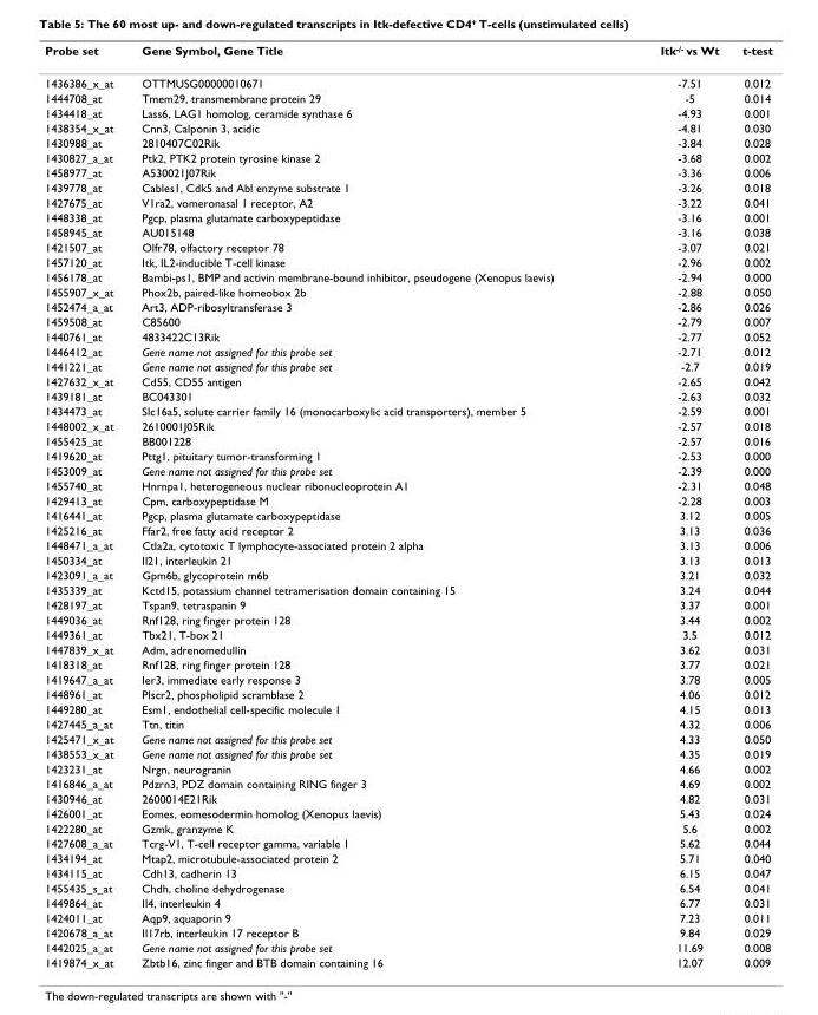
<table><thead><tr><td>Probe set</td><td>Gene Symbol, Gene Title</td><td>Itk<sup>-/-</sup> vs Wt</td><td>t-test</td></tr></thead><tbody><tr><td>1436386_x_at</td><td>OTTMUSG00000010671</td><td>-7.51</td><td>0.012</td></tr><tr><td>1444708_at</td><td>Tmem29, transmembrane protein 29</td><td>-5</td><td>0.014</td></tr><tr><td>1434418_at</td><td>Lass6, LAG1 homolog, ceramide synthase 6</td><td>-4.93</td><td>0.001</td></tr><tr><td>1438354_x_at</td><td>Cnn3, Calponin 3, acidic</td><td>-4.81</td><td>0.030</td></tr><tr><td>1430988_at</td><td>2810407C02Rik</td><td>-3.84</td><td>0.028</td></tr><tr><td>1430827_a_at</td><td>Ptk2, PTK2 protein tyrosine kinase 2</td><td>-3.68</td><td>0.002</td></tr><tr><td>1458977_at</td><td>A530021J07Rik</td><td>-3.36</td><td>0.006</td></tr><tr><td>1439778_at</td><td>Cables1, Cdk5 and Abl enzyme substrate 1</td><td>-3.26</td><td>0.018</td></tr><tr><td>1427675_at</td><td>V1ra2, vomeronasal 1 receptor, A2</td><td>-3.22</td><td>0.041</td></tr><tr><td>1448338_at</td><td>Pgcp, plasma glutamate carboxypeptidase</td><td>-3.16</td><td>0.001</td></tr><tr><td>1458945_at</td><td>AU015148</td><td>-3.16</td><td>0.038</td></tr><tr><td>1421507_at</td><td>Olfr78, olfactory receptor 78</td><td>-3.07</td><td>0.021</td></tr><tr><td>1457120_at</td><td>Itk, IL2-inducible T-cell kinase</td><td>-2.96</td><td>0.002</td></tr><tr><td>1456178_at</td><td>Bambi-ps1, BMP and activin membrane-bound inhibitor, pseudogene (Xenopus laevis)</td><td>-2.94</td><td>0.000</td></tr><tr><td>1455907_x_at</td><td>Phox2b, paired-like homeobox 2b</td><td>-2.88</td><td>0.050</td></tr><tr><td>1452474_a_at</td><td>Art3, ADP-ribosyltransferase 3</td><td>-2.86</td><td>0.026</td></tr><tr><td>1459508_at</td><td>C85600</td><td>-2.79</td><td>0.007</td></tr><tr><td>1440761_at</td><td>4833422C13Rik</td><td>-2.77</td><td>0.052</td></tr><tr><td>1446412_at</td><td>Gene name not assigned for this probe set</td><td>-2.71</td><td>0.012</td></tr><tr><td>1441221_at</td><td>Gene name not assigned for this probe set</td><td>-2.7</td><td>0.019</td></tr><tr><td>1427632_x_at</td><td>Cd55, CD55 antigen</td><td>-2.65</td><td>0.042</td></tr><tr><td>1439181_at</td><td>BC043301</td><td>-2.63</td><td>0.032</td></tr><tr><td>1434473_at</td><td>Slc16a5, solute carrier family 16 (monocarboxylic acid transporters), member 5</td><td>-2.59</td><td>0.001</td></tr><tr><td>1448002_x_at</td><td>2610001J05Rik</td><td>-2.57</td><td>0.018</td></tr><tr><td>1455425_at</td><td>BB001228</td><td>-2.57</td><td>0.016</td></tr><tr><td>1419620_at</td><td>Pttg1, pituitary tumor-transforming 1</td><td>-2.53</td><td>0.000</td></tr><tr><td>1453009_at</td><td>Gene name not assigned for this probe set</td><td>-2.39</td><td>0.000</td></tr><tr><td>1455740_at</td><td>Hnrnpa1, heterogeneous nuclear ribonucleoprotein A1</td><td>-2.31</td><td>0.048</td></tr><tr><td>1429413_at</td><td>Cpm, carboxypeptidase M</td><td>-2.28</td><td>0.003</td></tr><tr><td>1416441_at</td><td>Pgcp, plasma glutamate carboxypeptidase</td><td>3.12</td><td>0.005</td></tr><tr><td>1425216_at</td><td>Ffar2, free fatty acid receptor 2</td><td>3.13</td><td>0.036</td></tr><tr><td>1448471_a_at</td><td>Ctla2a, cytotoxic T lymphocyte-associated protein 2 alpha</td><td>3.13</td><td>0.006</td></tr><tr><td>1450334_at</td><td>Il21, interleukin 21</td><td>3.13</td><td>0.013</td></tr><tr><td>1423091_a_at</td><td>Gpm6b, glycoprotein m6b</td><td>3.21</td><td>0.032</td></tr><tr><td>1435339_at</td><td>Kctd15, potassium channel tetramerisation domain containing 15</td><td>3.24</td><td>0.044</td></tr><tr><td>1428197_at</td><td>Tspan9, tetraspanin 9</td><td>3.37</td><td>0.001</td></tr><tr><td>1449036_at</td><td>Rnf128, ring finger protein 128</td><td>3.44</td><td>0.002</td></tr><tr><td>1449361_at</td><td>Tbx21, T-box 21</td><td>3.5</td><td>0.012</td></tr><tr><td>1447839_x_at</td><td>Adm, adrenomedullin</td><td>3.62</td><td>0.031</td></tr><tr><td>1418318_at</td><td>Rnf128, ring finger protein 128</td><td>3.77</td><td>0.021</td></tr><tr><td>1419647_a_at</td><td>Ier3, immediate early response 3</td><td>3.78</td><td>0.005</td></tr><tr><td>1448961_at</td><td>Plscr2, phospholipid scramblase 2</td><td>4.06</td><td>0.012</td></tr><tr><td>1449280_at</td><td>Esm1, endothelial cell-specific molecule 1</td><td>4.15</td><td>0.013</td></tr><tr><td>1427445_a_at</td><td>Ttn, titin</td><td>4.32</td><td>0.006</td></tr><tr><td>1425471_x_at</td><td>Gene name not assigned for this probe set</td><td>4.33</td><td>0.050</td></tr><tr><td>1438553_x_at</td><td>Gene name not assigned for this probe set</td><td>4.35</td><td>0.019</td></tr><tr><td>1423231_at</td><td>Nrgn, neurogranin</td><td>4.66</td><td>0.002</td></tr><tr><td>1416846_a_at</td><td>Pdzrn3, PDZ domain containing RING finger 3</td><td>4.69</td><td>0.002</td></tr><tr><td>1430946_at</td><td>2600014E21Rik</td><td>4.82</td><td>0.031</td></tr><tr><td>1426001_at</td><td>Eomes, eomesodermin homolog (Xenopus laevis)</td><td>5.43</td><td>0.024</td></tr><tr><td>1422280_at</td><td>Gzmk, granzyme K</td><td>5.6</td><td>0.002</td></tr><tr><td>1427608_a_at</td><td>Tcrg-V1, T-cell receptor gamma, variable 1</td><td>5.62</td><td>0.044</td></tr><tr><td>1434194_at</td><td>Mtap2, microtubule-associated protein 2</td><td>5.71</td><td>0.040</td></tr><tr><td>1434115_at</td><td>Cdh13, cadherin 13</td><td>6.15</td><td>0.047</td></tr><tr><td>1455435_s_at</td><td>Chdh, choline dehydrogenase</td><td>6.54</td><td>0.041</td></tr><tr><td>1449864_at</td><td>Il4, interleukin 4</td><td>6.77</td><td>0.031</td></tr><tr><td>1424011_at</td><td>Aqp9, aquaporin 9</td><td>7.23</td><td>0.011</td></tr><tr><td>1420678_a_at</td><td>Il17rb, interleukin 17 receptor B</td><td>9.84</td><td>0.029</td></tr><tr><td>1442025_a_at</td><td>Gene name not assigned for this probe set</td><td>11.69</td><td>0.008</td></tr><tr><td>1419874_x_at</td><td>Zbtb16, zinc finger and BTB domain containing 16</td><td>12.07</td><td>0.009</td></tr></tbody></table>